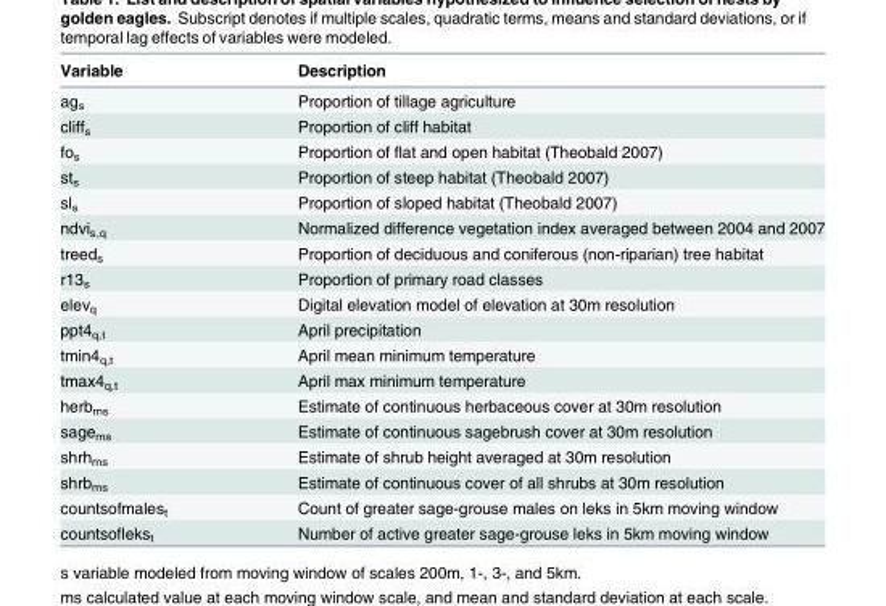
<table><thead><tr><td>Variable</td><td>Description</td></tr></thead><tbody><tr><td>ag<sub>s</sub></td><td>Proportion of tillage agriculture</td></tr><tr><td>cliff<sub>s</sub></td><td>Proportion of cliff habitat</td></tr><tr><td>fo<sub>s</sub></td><td>Proportion of flat and open habitat (Theobald 2007)</td></tr><tr><td>st<sub>s</sub></td><td>Proportion of steep habitat (Theobald 2007)</td></tr><tr><td>sl<sub>s</sub></td><td>Proportion of sloped habitat (Theobald 2007)</td></tr><tr><td>ndvi<sub>s,q</sub></td><td>Normalized difference vegetation index averaged between 2004 and 2007</td></tr><tr><td>treed<sub>s</sub></td><td>Proportion of deciduous and coniferous (non-riparian) tree habitat</td></tr><tr><td>r13<sub>s</sub></td><td>Proportion of primary road classes</td></tr><tr><td>elev<sub>q</sub></td><td>Digital elevation model of elevation at 30m resolution</td></tr><tr><td>ppt4<sub>q,t</sub></td><td>April precipitation</td></tr><tr><td>tmin4<sub>q,t</sub></td><td>April mean minimum temperature</td></tr><tr><td>tmax4<sub>q,t</sub></td><td>April max minimum temperature</td></tr><tr><td>herb<sub>ms</sub></td><td>Estimate of continuous herbaceous cover at 30m resolution</td></tr><tr><td>sage<sub>ms</sub></td><td>Estimate of continuous sagebrush cover at 30m resolution</td></tr><tr><td>shrh<sub>ms</sub></td><td>Estimate of shrub height averaged at 30m resolution</td></tr><tr><td>shrb<sub>ms</sub></td><td>Estimate of continuous cover of all shrubs at 30m resolution</td></tr><tr><td>countsofmales<sub>t</sub></td><td>Count of greater sage-grouse males on leks in 5km moving window</td></tr><tr><td>countsofleks<sub>t</sub></td><td>Number of active greater sage-grouse leks in 5km moving window</td></tr></tbody></table>